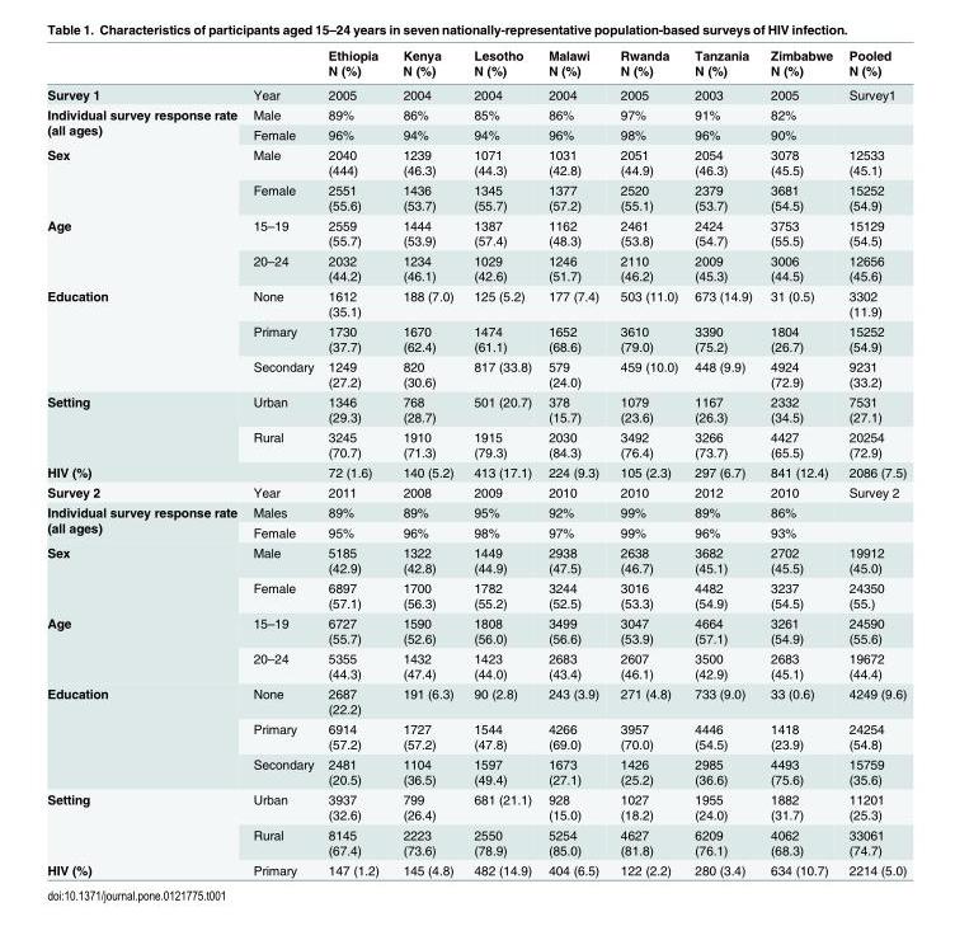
<table><thead><tr><td rowspan="2"></td><td rowspan="2"></td><td rowspan="2">Ethiopia N (%)</td><td rowspan="2">Kenya N (%)</td><td rowspan="2">Lesotho N (%)</td><td rowspan="2">Malawi N (%)</td><td rowspan="2">Rwanda N (%)</td><td rowspan="2">Tanzania N (%)</td><td rowspan="2">Zimbabwe N (%)</td><td rowspan="2">Pooled N (%)</td></tr><tr></tr></thead><tbody><tr><td>Survey 1</td><td>Year</td><td>2005</td><td>2004</td><td>2004</td><td>2004</td><td>2005</td><td>2003</td><td>2005</td><td>Survey1</td></tr><tr><td rowspan="2">Individual survey response rate (all ages)</td><td>Male</td><td>89%</td><td>86%</td><td>85%</td><td>86%</td><td>97%</td><td>91%</td><td>82%</td><td></td></tr><tr><td>Female</td><td>96%</td><td>94%</td><td>94%</td><td>96%</td><td>98%</td><td>96%</td><td>90%</td><td></td></tr><tr><td rowspan="2">Sex</td><td>Male</td><td>2040 (444)</td><td>1239 (46.3)</td><td>1071 (44.3)</td><td>1031 (42.8)</td><td>2051 (44.9)</td><td>2054 (46.3)</td><td>3078 (45.5)</td><td>12533 (45.1)</td></tr><tr><td>Female</td><td>2551 (55.6)</td><td>1436 (53.7)</td><td>1345 (55.7)</td><td>1377 (57.2)</td><td>2520 (55.1)</td><td>2379 (53.7)</td><td>3681 (54.5)</td><td>15252 (54.9)</td></tr><tr><td rowspan="2">Age</td><td>15–19</td><td>2559 (55.7)</td><td>1444 (53.9)</td><td>1387 (57.4)</td><td>1162 (48.3)</td><td>2461 (53.8)</td><td>2424 (54.7)</td><td>3753 (55.5)</td><td>15129 (54.5)</td></tr><tr><td>20–24</td><td>2032 (44.2)</td><td>1234 (46.1)</td><td>1029 (42.6)</td><td>1246 (51.7)</td><td>2110 (46.2)</td><td>2009 (45.3)</td><td>3006 (44.5)</td><td>12656 (45.6)</td></tr><tr><td rowspan="3">Education</td><td>None</td><td>1612 (35.1)</td><td>188 (7.0)</td><td>125 (5.2)</td><td>177 (7.4)</td><td>503 (11.0)</td><td>673 (14.9)</td><td>31 (0.5)</td><td>3302 (11.9)</td></tr><tr><td>Primary</td><td>1730 (37.7)</td><td>1670 (62.4)</td><td>1474 (61.1)</td><td>1652 (68.6)</td><td>3610 (79.0)</td><td>3390 (75.2)</td><td>1804 (26.7)</td><td>15252 (54.9)</td></tr><tr><td>Secondary</td><td>1249 (27.2)</td><td>820 (30.6)</td><td>817 (33.8)</td><td>579 (24.0)</td><td>459 (10.0)</td><td>448 (9.9)</td><td>4924 (72.9)</td><td>9231 (33.2)</td></tr><tr><td rowspan="2">Setting</td><td>Urban</td><td>1346 (29.3)</td><td>768 (28.7)</td><td>501 (20.7)</td><td>378 (15.7)</td><td>1079 (23.6)</td><td>1167 (26.3)</td><td>2332 (34.5)</td><td>7531 (27.1)</td></tr><tr><td>Rural</td><td>3245 (70.7)</td><td>1910 (71.3)</td><td>1915 (79.3)</td><td>2030 (84.3)</td><td>3492 (76.4)</td><td>3266 (73.7)</td><td>4427 (65.5)</td><td>20254 (72.9)</td></tr><tr><td>HIV (%)</td><td></td><td>72 (1.6)</td><td>140 (5.2)</td><td>413 (17.1)</td><td>224 (9.3)</td><td>105 (2.3)</td><td>297 (6.7)</td><td>841 (12.4)</td><td>2086 (7.5)</td></tr><tr><td>Survey 2</td><td>Year</td><td>2011</td><td>2008</td><td>2009</td><td>2010</td><td>2010</td><td>2012</td><td>2010</td><td>Survey 2</td></tr><tr><td rowspan="2">Individual survey response rate (all ages)</td><td>Males</td><td>89%</td><td>89%</td><td>95%</td><td>92%</td><td>99%</td><td>89%</td><td>86%</td><td></td></tr><tr><td>Female</td><td>95%</td><td>96%</td><td>98%</td><td>97%</td><td>99%</td><td>96%</td><td>93%</td><td></td></tr><tr><td rowspan="2">Sex</td><td>Male</td><td>5185 (42.9)</td><td>1322 (42.8)</td><td>1449 (44.9)</td><td>2938 (47.5)</td><td>2638 (46.7)</td><td>3682 (45.1)</td><td>2702 (45.5)</td><td>19912 (45.0)</td></tr><tr><td>Female</td><td>6897 (57.1)</td><td>1700 (56.3)</td><td>1782 (55.2)</td><td>3244 (52.5)</td><td>3016 (53.3)</td><td>4482 (54.9)</td><td>3237 (54.5)</td><td>24350 (55.)</td></tr><tr><td rowspan="2">Age</td><td>15–19</td><td>6727 (55.7)</td><td>1590 (52.6)</td><td>1808 (56.0)</td><td>3499 (56.6)</td><td>3047 (53.9)</td><td>4664 (57.1)</td><td>3261 (54.9)</td><td>24590 (55.6)</td></tr><tr><td>20–24</td><td>5355 (44.3)</td><td>1432 (47.4)</td><td>1423 (44.0)</td><td>2683 (43.4)</td><td>2607 (46.1)</td><td>3500 (42.9)</td><td>2683 (45.1)</td><td>19672 (44.4)</td></tr><tr><td rowspan="3">Education</td><td>None</td><td>2687 (22.2)</td><td>191 (6.3)</td><td>90 (2.8)</td><td>243 (3.9)</td><td>271 (4.8)</td><td>733 (9.0)</td><td>33 (0.6)</td><td>4249 (9.6)</td></tr><tr><td>Primary</td><td>6914 (57.2)</td><td>1727 (57.2)</td><td>1544 (47.8)</td><td>4266 (69.0)</td><td>3957 (70.0)</td><td>4446 (54.5)</td><td>1418 (23.9)</td><td>24254 (54.8)</td></tr><tr><td>Secondary</td><td>2481 (20.5)</td><td>1104 (36.5)</td><td>1597 (49.4)</td><td>1673 (27.1)</td><td>1426 (25.2)</td><td>2985 (36.6)</td><td>4493 (75.6)</td><td>15759 (35.6)</td></tr><tr><td rowspan="2">Setting</td><td>Urban</td><td>3937 (32.6)</td><td>799 (26.4)</td><td>681 (21.1)</td><td>928 (15.0)</td><td>1027 (18.2)</td><td>1955 (24.0)</td><td>1882 (31.7)</td><td>11201 (25.3)</td></tr><tr><td>Rural</td><td>8145 (67.4)</td><td>2223 (73.6)</td><td>2550 (78.9)</td><td>5254 (85.0)</td><td>4627 (81.8)</td><td>6209 (76.1)</td><td>4062 (68.3)</td><td>33061 (74.7)</td></tr><tr><td>HIV (%)</td><td>Primary</td><td>147 (1.2)</td><td>145 (4.8)</td><td>482 (14.9)</td><td>404 (6.5)</td><td>122 (2.2)</td><td>280 (3.4)</td><td>634 (10.7)</td><td>2214 (5.0)</td></tr></tbody></table>